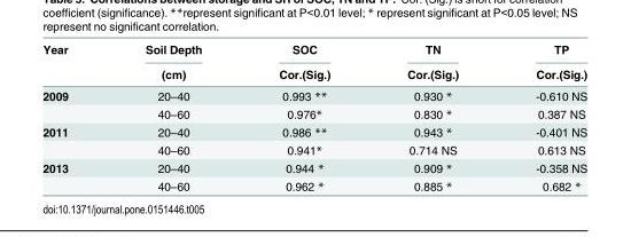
<table><thead><tr><td rowspan="2">Year</td><td rowspan="2">Soil Depth (cm)</td><td rowspan="2">SOC Cor.(Sig.)</td><td rowspan="2">TN Cor.(Sig.)</td><td rowspan="2">TP Cor.(Sig.)</td></tr><tr></tr></thead><tbody><tr><td rowspan="2">2009</td><td>20–40</td><td>0.993 **</td><td>0.930 *</td><td>-0.610 NS</td></tr><tr><td>40–60</td><td>0.976*</td><td>0.830 *</td><td>0.387 NS</td></tr><tr><td rowspan="2">2011</td><td>20–40</td><td>0.986 **</td><td>0.943 *</td><td>-0.401 NS</td></tr><tr><td>40–60</td><td>0.941*</td><td>0.714 NS</td><td>0.613 NS</td></tr><tr><td rowspan="2">2013</td><td>20–40</td><td>0.944 *</td><td>0.909 *</td><td>-0.358 NS</td></tr><tr><td>40–60</td><td>0.962 *</td><td>0.885 *</td><td>0.682 *</td></tr></tbody></table>